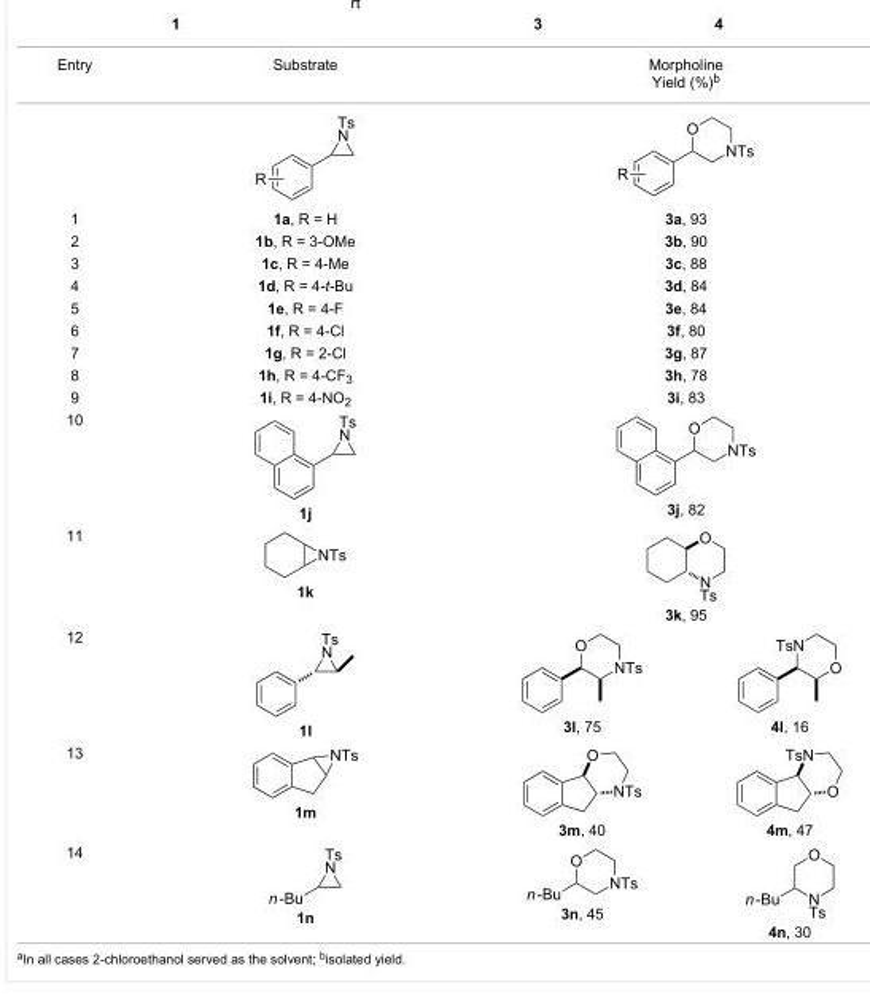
<table><tbody><tr><td>Entry</td><td>Substrate</td><td colspan="2">Morpholine Yield (%)<sup>b</sup></td></tr><tr><td>1</td><td>1a, R = H</td><td colspan="2">3a, 93</td></tr><tr><td>2</td><td>1b, R = 3-OMe</td><td colspan="2">3b, 90</td></tr><tr><td>3</td><td>1c, R = 4-Me</td><td colspan="2">3c, 88</td></tr><tr><td>4</td><td>1d, R = 4-t-Bu</td><td colspan="2">3d, 84</td></tr><tr><td>5</td><td>1e, R = 4-F</td><td colspan="2">3e, 84</td></tr><tr><td>6</td><td>1f, R = 4-Cl</td><td colspan="2">3f, 80</td></tr><tr><td>7</td><td>1g, R = 2-Cl</td><td colspan="2">3g, 87</td></tr><tr><td>8</td><td>1h, R = 4-CF<sub>3</sub></td><td colspan="2">3h, 78</td></tr><tr><td>9</td><td>1i, R = 4-NO<sub>2</sub></td><td colspan="2">3i, 83</td></tr><tr><td>10</td><td>1j</td><td colspan="2">3j, 82</td></tr><tr><td>11</td><td>1k</td><td colspan="2">3k, 95</td></tr><tr><td>12</td><td>1l</td><td>3l, 75</td><td>4l, 16</td></tr><tr><td>13</td><td>1m</td><td>3m, 40</td><td>4m, 47</td></tr><tr><td>14</td><td>1n</td><td>3n, 45</td><td>4n, 30</td></tr></tbody></table>